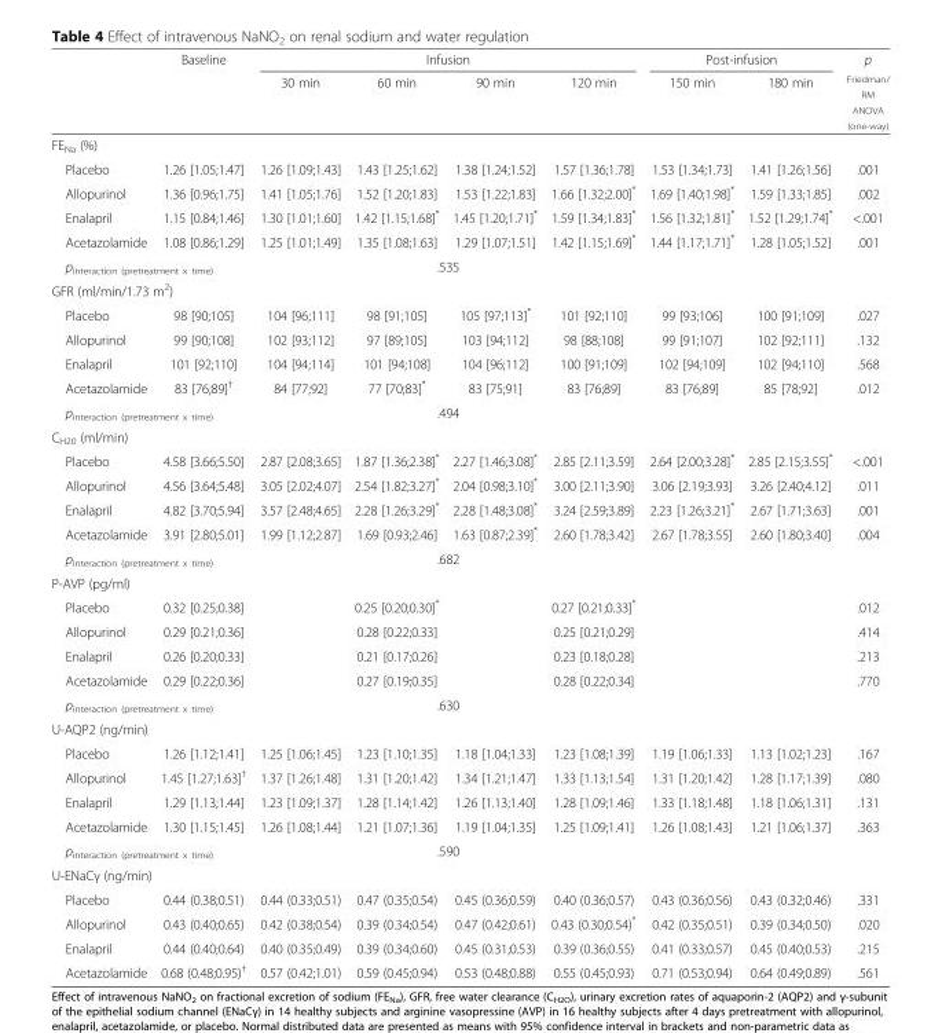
<table><thead><tr><td rowspan="2"></td><td rowspan="2">Baseline</td><td colspan="4">Infusion</td><td colspan="2">Post-infusion</td><td rowspan="2">p <sub>Friedman/ RM ANOVA (one-way)</sub></td></tr><tr><td>30 min</td><td>60 min</td><td>90 min</td><td>120 min</td><td>150 min</td><td>180 min</td></tr></thead><tbody><tr><td colspan="9">FE<sub>Na</sub> (%)</td></tr><tr><td>Placebo</td><td>1.26 [1.05;1.47]</td><td>1.26 [1.09;1.43]</td><td>1.43 [1.25;1.62]</td><td>1.38 [1.24;1.52]</td><td>1.57 [1.36;1.78]</td><td>1.53 [1.34;1.73]</td><td>1.41 [1.26;1.56]</td><td>.001</td></tr><tr><td>Allopurinol</td><td>1.36 [0.96;1.75]</td><td>1.41 [1.05;1.76]</td><td>1.52 [1.20;1.83]</td><td>1.53 [1.22;1.83]</td><td>1.66 [1.32;2.00]*</td><td>1.69 [1.40;1.98]*</td><td>1.59 [1.33;1.85]</td><td>.002</td></tr><tr><td>Enalapril</td><td>1.15 [0.84;1.46]</td><td>1.30 [1.01;1.60]</td><td>1.42 [1.15;1.68]*</td><td>1.45 [1.20;1.71]*</td><td>1.59 [1.34;1.83]*</td><td>1.56 [1.32;1.81]*</td><td>1.52 [1.29;1.74]*</td><td>&lt;.001</td></tr><tr><td>Acetazolamide</td><td>1.08 [0.86;1.29]</td><td>1.25 [1.01;1.49]</td><td>1.35 [1.08;1.63]</td><td>1.29 [1.07;1.51]</td><td>1.42 [1.15;1.69]*</td><td>1.44 [1.17;1.71]*</td><td>1.28 [1.05;1.52]</td><td>.001</td></tr><tr><td colspan="2">p<sub>interaction (pretreatment x time)</sub></td><td colspan="4">.535</td><td></td><td></td><td></td></tr><tr><td colspan="9">GFR (ml/min/1.73 m<sup>2</sup>)</td></tr><tr><td>Placebo</td><td>98 [90;105]</td><td>104 [96;111]</td><td>98 [91;105]</td><td>105 [97;113]*</td><td>101 [92;110]</td><td>99 [93;106]</td><td>100 [91;109]</td><td>.027</td></tr><tr><td>Allopurinol</td><td>99 [90;108]</td><td>102 [93;112]</td><td>97 [89;105]</td><td>103 [94;112]</td><td>98 [88;108]</td><td>99 [91;107]</td><td>102 [92;111]</td><td>.132</td></tr><tr><td>Enalapril</td><td>101 [92;110]</td><td>104 [94;114]</td><td>101 [94;108]</td><td>104 [96;112]</td><td>100 [91;109]</td><td>102 [94;109]</td><td>102 [94;110]</td><td>.568</td></tr><tr><td>Acetazolamide</td><td>83 [76;89]<sup>†</sup></td><td>84 [77;92]</td><td>77 [70;83]*</td><td>83 [75;91]</td><td>83 [76;89]</td><td>83 [76;89]</td><td>85 [78;92]</td><td>.012</td></tr><tr><td colspan="2">p<sub>interaction (pretreatment x time)</sub></td><td colspan="4">.494</td><td></td><td></td><td></td></tr><tr><td colspan="9">C<sub>H20</sub> (ml/min)</td></tr><tr><td>Placebo</td><td>4.58 [3.66;5.50]</td><td>2.87 [2.08;3.65]</td><td>1.87 [1.36;2.38]*</td><td>2.27 [1.46;3.08]*</td><td>2.85 [2.11;3.59]</td><td>2.64 [2.00;3.28]*</td><td>2.85 [2.15;3.55]*</td><td>&lt;.001</td></tr><tr><td>Allopurinol</td><td>4.56 [3.64;5.48]</td><td>3.05 [2.02;4.07]</td><td>2.54 [1.82;3.27]*</td><td>2.04 [0.98;3.10]*</td><td>3.00 [2.11;3.90]</td><td>3.06 [2.19;3.93]</td><td>3.26 [2.40;4.12]</td><td>.011</td></tr><tr><td>Enalapril</td><td>4.82 [3.70;5.94]</td><td>3.57 [2.48;4.65]</td><td>2.28 [1.26;3.29]*</td><td>2.28 [1.48;3.08]*</td><td>3.24 [2.59;3.89]</td><td>2.23 [1.26;3.21]*</td><td>2.67 [1.71;3.63]</td><td>.001</td></tr><tr><td>Acetazolamide</td><td>3.91 [2.80;5.01]</td><td>1.99 [1.12;2.87]</td><td>1.69 [0.93;2.46]</td><td>1.63 [0.87;2.39]*</td><td>2.60 [1.78;3.42]</td><td>2.67 [1.78;3.55]</td><td>2.60 [1.80;3.40]</td><td>.004</td></tr><tr><td colspan="2">p<sub>interaction (pretreatment x time)</sub></td><td colspan="4">.682</td><td></td><td></td><td></td></tr><tr><td colspan="9">P-AVP (pg/ml)</td></tr><tr><td>Placebo</td><td>0.32 [0.25;0.38]</td><td></td><td>0.25 [0.20;0.30]*</td><td></td><td>0.27 [0.21;0.33]*</td><td></td><td></td><td>.012</td></tr><tr><td>Allopurinol</td><td>0.29 [0.21;0.36]</td><td></td><td>0.28 [0.22;0.33]</td><td></td><td>0.25 [0.21;0.29]</td><td></td><td></td><td>.414</td></tr><tr><td>Enalapril</td><td>0.26 [0.20;0.33]</td><td></td><td>0.21 [0.17;0.26]</td><td></td><td>0.23 [0.18;0.28]</td><td></td><td></td><td>.213</td></tr><tr><td>Acetazolamide</td><td>0.29 [0.22;0.36]</td><td></td><td>0.27 [0.19;0.35]</td><td></td><td>0.28 [0.22;0.34]</td><td></td><td></td><td>.770</td></tr><tr><td colspan="2">p<sub>interaction (pretreatment x time)</sub></td><td colspan="4">.630</td><td></td><td></td><td></td></tr><tr><td colspan="9">U-AQP2 (ng/min)</td></tr><tr><td>Placebo</td><td>1.26 [1.12;1.41]</td><td>1.25 [1.06;1.45]</td><td>1.23 [1.10;1.35]</td><td>1.18 [1.04;1.33]</td><td>1.23 [1.08;1.39]</td><td>1.19 [1.06;1.33]</td><td>1.13 [1.02;1.23]</td><td>.167</td></tr><tr><td>Allopurinol</td><td>1.45 [1.27;1.63]<sup>†</sup></td><td>1.37 [1.26;1.48]</td><td>1.31 [1.20;1.42]</td><td>1.34 [1.21;1.47]</td><td>1.33 [1.13;1.54]</td><td>1.31 [1.20;1.42]</td><td>1.28 [1.17;1.39]</td><td>.080</td></tr><tr><td>Enalapril</td><td>1.29 [1.13;1.44]</td><td>1.23 [1.09;1.37]</td><td>1.28 [1.14;1.42]</td><td>1.26 [1.13;1.40]</td><td>1.28 [1.09;1.46]</td><td>1.33 [1.18;1.48]</td><td>1.18 [1.06;1.31]</td><td>.131</td></tr><tr><td>Acetazolamide</td><td>1.30 [1.15;1.45]</td><td>1.26 [1.08;1.44]</td><td>1.21 [1.07;1.36]</td><td>1.19 [1.04;1.35]</td><td>1.25 [1.09;1.41]</td><td>1.26 [1.08;1.43]</td><td>1.21 [1.06;1.37]</td><td>.363</td></tr><tr><td colspan="2">p<sub>interaction (pretreatment x time)</sub></td><td colspan="4">.590</td><td></td><td></td><td></td></tr><tr><td colspan="9">U-ENaCγ (ng/min)</td></tr><tr><td>Placebo</td><td>0.44 (0.38;0.51)</td><td>0.44 (0.33;0.51)</td><td>0.47 (0.35;0.54)</td><td>0.45 (0.36;0.59)</td><td>0.40 (0.36;0.57)</td><td>0.43 (0.36;0.56)</td><td>0.43 (0.32;0.46)</td><td>.331</td></tr><tr><td>Allopurinol</td><td>0.43 (0.40;0.65)</td><td>0.42 (0.38;0.54)</td><td>0.39 (0.34;0.54)</td><td>0.47 (0.42;0.61)</td><td>0.43 (0.30;0.54)*</td><td>0.42 (0.35;0.51)</td><td>0.39 (0.34;0.50)</td><td>.020</td></tr><tr><td>Enalapril</td><td>0.44 (0.40;0.64)</td><td>0.40 (0.35;0.49)</td><td>0.39 (0.34;0.60)</td><td>0.45 (0.31;0.53)</td><td>0.39 (0.36;0.55)</td><td>0.41 (0.33;0.57)</td><td>0.45 (0.40;0.53)</td><td>.215</td></tr><tr><td>Acetazolamide</td><td>0.68 (0.48;0.95)<sup>†</sup></td><td>0.57 (0.42;1.01)</td><td>0.59 (0.45;0.94)</td><td>0.53 (0.48;0.88)</td><td>0.55 (0.45;0.93)</td><td>0.71 (0.53;0.94)</td><td>0.64 (0.49;0.89)</td><td>.561</td></tr></tbody></table>